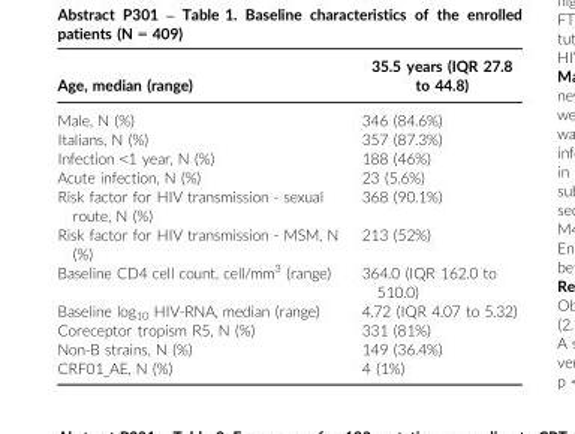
<table><thead><tr><td>Age, median (range)</td><td>35.5 years (IQR 27.8 to 44.8)</td></tr></thead><tbody><tr><td>Male, N (%)</td><td>346 (84.6%)</td></tr><tr><td>Italians, N (%)</td><td>357 (87.3%)</td></tr><tr><td>Infection &lt;1 year, N (%)</td><td>188 (46%)</td></tr><tr><td>Acute infection, N (%)</td><td>23 (5.6%)</td></tr><tr><td>Risk factor for HIV transmission - sexual route, N (%)</td><td>368 (90.1%)</td></tr><tr><td>Risk factor for HIV transmission - MSM, N (%)</td><td>213 (52%)</td></tr><tr><td>Baseline CD4 cell count, cell/mm<sup>3</sup> (range)</td><td>364.0 (IQR 162.0 to 510.0)</td></tr><tr><td>Baseline log10 HIV-RNA, median (range)</td><td>4.72 (IQR 4.07 to 5.32)</td></tr><tr><td>Coreceptor tropism R5, N (%)</td><td>331 (81%)</td></tr><tr><td>Non-B strains, N (%)</td><td>149 (36.4%)</td></tr><tr><td>CRF01_AE, N (%)</td><td>4 (1%)</td></tr></tbody></table>